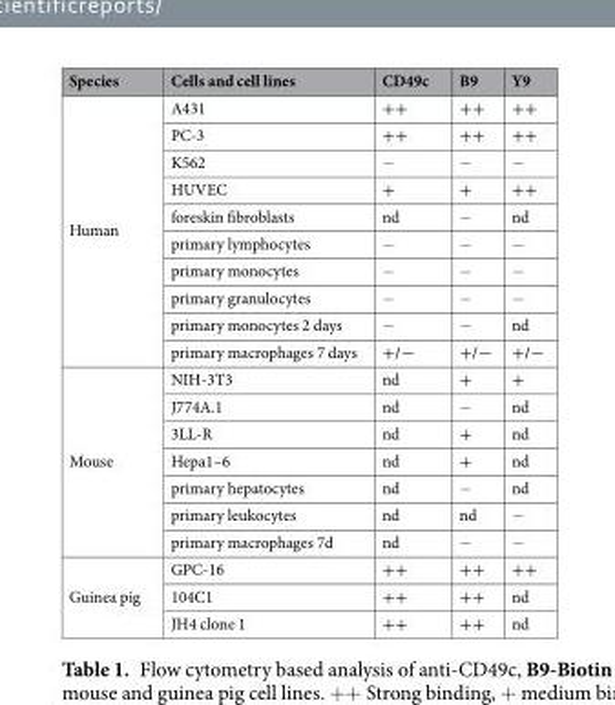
<table><thead><tr><td>Species</td><td>Cells and cell lines</td><td>CD49c</td><td>B9</td><td>Y9</td></tr></thead><tbody><tr><td rowspan="10">Human</td><td>A431</td><td>++</td><td>++</td><td>++</td></tr><tr><td>PC-3</td><td>++</td><td>++</td><td>++</td></tr><tr><td>K562</td><td>−</td><td>−</td><td>−</td></tr><tr><td>HUVEC</td><td>+</td><td>+</td><td>++</td></tr><tr><td>foreskin fibroblasts</td><td>nd</td><td>−</td><td>nd</td></tr><tr><td>primary lymphocytes</td><td>−</td><td>−</td><td>−</td></tr><tr><td>primary monocytes</td><td>−</td><td>−</td><td>−</td></tr><tr><td>primary granulocytes</td><td>−</td><td>−</td><td>−</td></tr><tr><td>primary monocytes 2 days</td><td>−</td><td>−</td><td>nd</td></tr><tr><td>primary macrophages 7 days</td><td>+/−</td><td>+/−</td><td>+/−</td></tr><tr><td rowspan="7">Mouse</td><td>NIH-3T3</td><td>nd</td><td>+</td><td>+</td></tr><tr><td>J774A.1</td><td>nd</td><td>−</td><td>nd</td></tr><tr><td>3LL-R</td><td>nd</td><td>+</td><td>nd</td></tr><tr><td>Hepa1–6</td><td>nd</td><td>+</td><td>nd</td></tr><tr><td>primary hepatocytes</td><td>nd</td><td>−</td><td>nd</td></tr><tr><td>primary leukocytes</td><td>nd</td><td>nd</td><td>−</td></tr><tr><td>primary macrophages 7d</td><td>nd</td><td>−</td><td>−</td></tr><tr><td rowspan="3">Guinea pig</td><td>GPC-16</td><td>++</td><td>++</td><td>++</td></tr><tr><td>104C1</td><td>++</td><td>++</td><td>nd</td></tr><tr><td>JH4 clone 1</td><td>++</td><td>++</td><td>nd</td></tr></tbody></table>